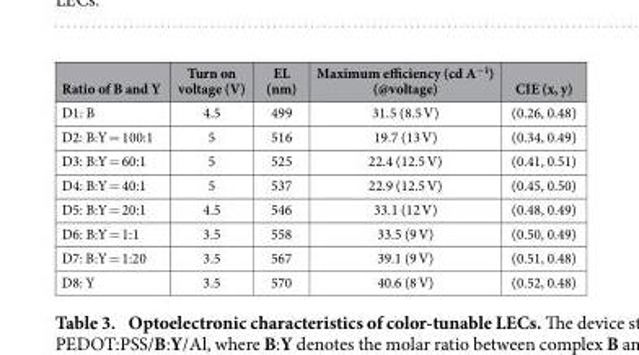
<table><thead><tr><td>Ratio of B and Y</td><td>Turn on voltage (V)</td><td>EL (nm)</td><td>Maximum efficiency (cd A<sup>−1</sup>) (@voltage)</td><td>CIE (x, y)</td></tr></thead><tbody><tr><td>D1: B</td><td>4.5</td><td>499</td><td>31.5 (8.5 V)</td><td>(0.26, 0.48)</td></tr><tr><td>D2: B:Y = 100:1</td><td>5</td><td>516</td><td>19.7 (13 V)</td><td>(0.34, 0.49)</td></tr><tr><td>D3: B:Y = 60:1</td><td>5</td><td>525</td><td>22.4 (12.5 V)</td><td>(0.41, 0.51)</td></tr><tr><td>D4: B:Y = 40:1</td><td>5</td><td>537</td><td>22.9 (12.5 V)</td><td>(0.45, 0.50)</td></tr><tr><td>D5: B:Y = 20:1</td><td>4.5</td><td>546</td><td>33.1 (12 V)</td><td>(0.48, 0.49)</td></tr><tr><td>D6: B:Y = 1:1</td><td>3.5</td><td>558</td><td>33.5 (9 V)</td><td>(0.50, 0.49)</td></tr><tr><td>D7: B:Y = 1:20</td><td>3.5</td><td>567</td><td>39.1 (9 V)</td><td>(0.51, 0.48)</td></tr><tr><td>D8: Y</td><td>3.5</td><td>570</td><td>40.6 (8 V)</td><td>(0.52, 0.48)</td></tr></tbody></table>